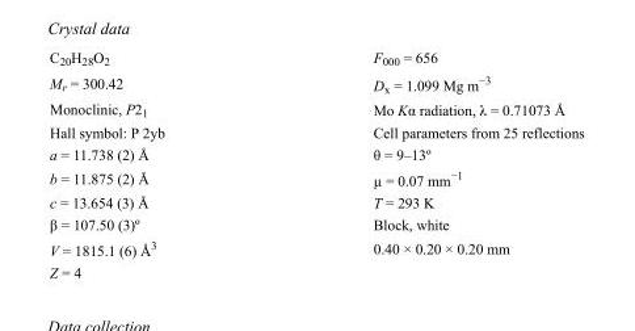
<table><tbody><tr><td>C<sub>20</sub>H<sub>28</sub>O<sub>2</sub></td><td>F000 = 656</td></tr><tr><td>M<sub>r</sub> = 300.42</td><td>D<sub>x</sub> = 1.099 Mg m<sup>−3</sup></td></tr><tr><td>Monoclinic, P2<sub>1</sub></td><td>Mo Kα radiation, λ = 0.71073 Å</td></tr><tr><td>Hall symbol: P 2yb</td><td>Cell parameters from 25 reflections</td></tr><tr><td>a = 11.738 (2) Å</td><td>θ = 9–13º</td></tr><tr><td>b = 11.875 (2) Å</td><td>µ = 0.07 mm<sup>−1</sup></td></tr><tr><td>c = 13.654 (3) Å</td><td>T = 293 K</td></tr><tr><td>β = 107.50 (3)º</td><td>Block, white</td></tr><tr><td>V = 1815.1 (6) Å<sup>3</sup></td><td>0.40 × 0.20 × 0.20 mm</td></tr><tr><td>Z = 4</td><td></td></tr></tbody></table>